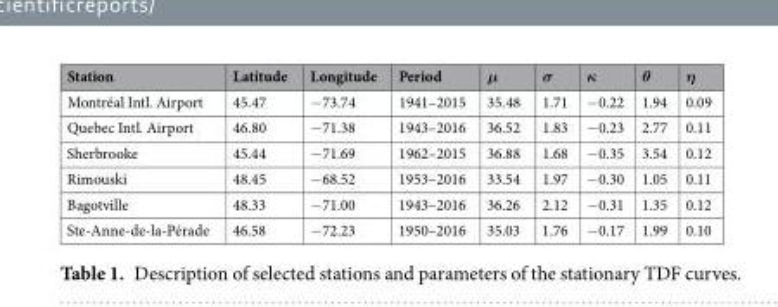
<table><thead><tr><td>Station</td><td>Latitude</td><td>Longitude</td><td>Period</td><td>μ</td><td>σ</td><td>κ</td><td>θ</td><td>η</td></tr></thead><tbody><tr><td>Montréal Intl. Airport</td><td>45.47</td><td>−73.74</td><td>1941–2015</td><td>35.48</td><td>1.71</td><td>−0.22</td><td>1.94</td><td>0.09</td></tr><tr><td>Quebec Intl. Airport</td><td>46.80</td><td>−71.38</td><td>1943–2016</td><td>36.52</td><td>1.83</td><td>−0.23</td><td>2.77</td><td>0.11</td></tr><tr><td>Sherbrooke</td><td>45.44</td><td>−71.69</td><td>1962–2015</td><td>36.88</td><td>1.68</td><td>−0.35</td><td>3.54</td><td>0.12</td></tr><tr><td>Rimouski</td><td>48.45</td><td>−68.52</td><td>1953–2016</td><td>33.54</td><td>1.97</td><td>−0.30</td><td>1.05</td><td>0.11</td></tr><tr><td>Bagotville</td><td>48.33</td><td>−71.00</td><td>1943–2016</td><td>36.26</td><td>2.12</td><td>−0.31</td><td>1.35</td><td>0.12</td></tr><tr><td>Ste-Anne-de-la-Pérade</td><td>46.58</td><td>−72.23</td><td>1950–2016</td><td>35.03</td><td>1.76</td><td>−0.17</td><td>1.99</td><td>0.10</td></tr></tbody></table>